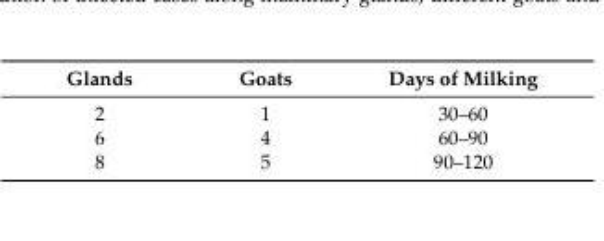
<table><thead><tr><td>Glands</td><td>Goats</td><td>Days of Milking</td></tr></thead><tbody><tr><td>2</td><td>1</td><td>30–60</td></tr><tr><td>6</td><td>4</td><td>60–90</td></tr><tr><td>8</td><td>5</td><td>90–120</td></tr></tbody></table>